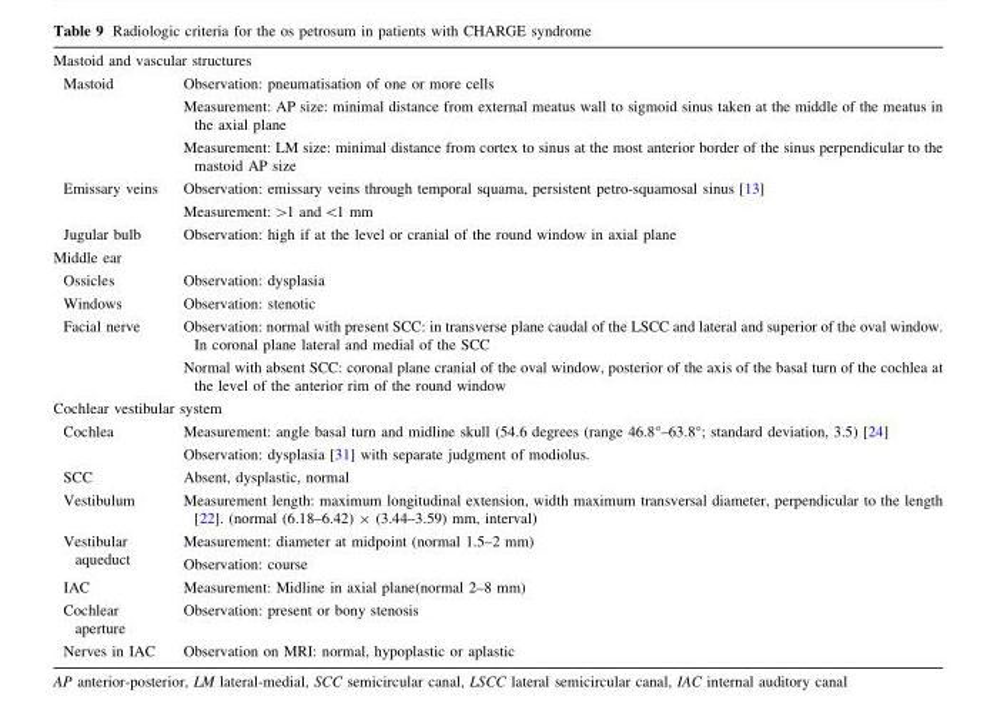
<table><tbody><tr><td colspan="2">Mastoid and vascular structures</td></tr><tr><td>Mastoid</td><td>Observation: pneumatisation of one or more cells Measurement: AP size: minimal distance from external meatus wall to sigmoid sinus taken at the middle of the meatus in the axial plane Measurement: LM size: minimal distance from cortex to sinus at the most anterior border of the sinus perpendicular to the mastoid AP size</td></tr><tr><td>Emissary veins</td><td>Observation: emissary veins through temporal squama, persistent petro-squamosal sinus [13] Measurement: &gt;1 and &lt;1 mm</td></tr><tr><td>Jugular bulb</td><td>Observation: high if at the level or cranial of the round window in axial plane</td></tr><tr><td colspan="2">Middle ear</td></tr><tr><td>Ossicles</td><td>Observation: dysplasia</td></tr><tr><td>Windows</td><td>Observation: stenotic</td></tr><tr><td>Facial nerve</td><td>Observation: normal with present SCC: in transverse plane caudal of the LSCC and lateral and superior of the oval window. In coronal plane lateral and medial of the SCC Normal with absent SCC: coronal plane cranial of the oval window, posterior of the axis of the basal turn of the cochlea at the level of the anterior rim of the round window</td></tr><tr><td colspan="2">Cochlear vestibular system</td></tr><tr><td>Cochlea</td><td>Measurement: angle basal turn and midline skull (54.6 degrees (range 46.8°–63.8°; standard deviation, 3.5) [24] Observation: dysplasia [31] with separate judgment of modiolus.</td></tr><tr><td>SCC</td><td>Absent, dysplastic, normal</td></tr><tr><td>Vestibulum</td><td>Measurement length: maximum longitudinal extension, width maximum transversal diameter, perpendicular to the length [22]. (normal (6.18–6.42) × (3.44–3.59) mm, interval)</td></tr><tr><td>Vestibular aqueduct</td><td>Measurement: diameter at midpoint (normal 1.5–2 mm) Observation: course</td></tr><tr><td>IAC</td><td>Measurement: Midline in axial plane(normal 2–8 mm)</td></tr><tr><td>Cochlear aperture</td><td>Observation: present or bony stenosis</td></tr><tr><td>Nerves in IAC</td><td>Observation on MRI: normal, hypoplastic or aplastic</td></tr></tbody></table>